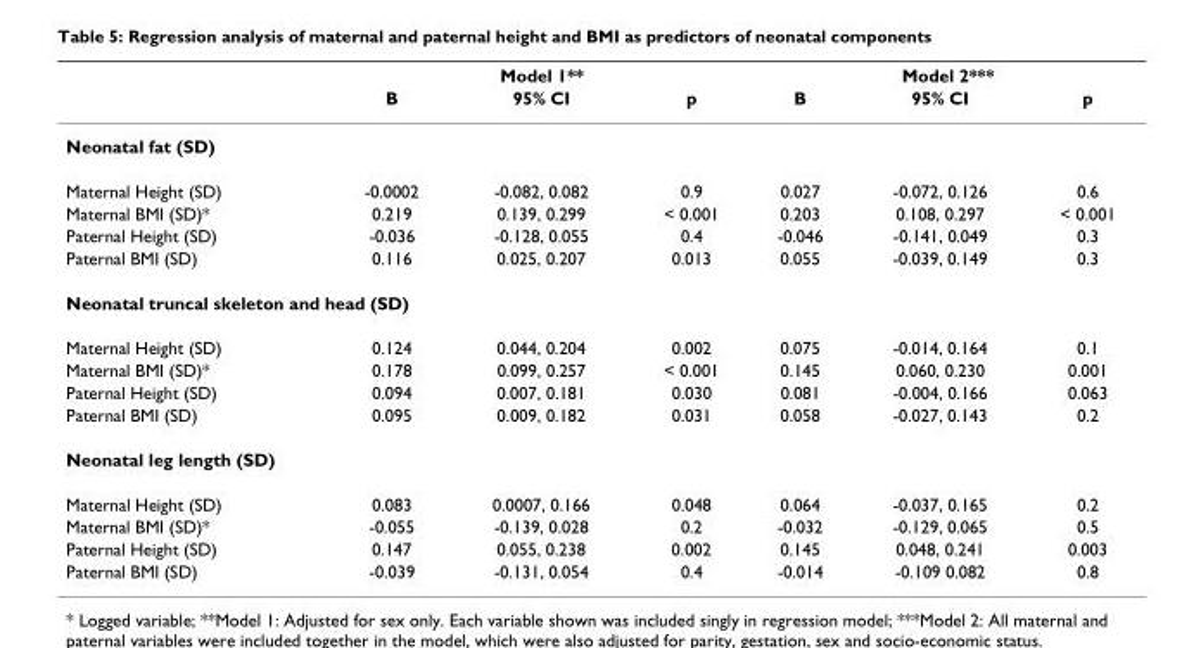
<table><thead><tr><td rowspan="2"></td><td colspan="3">Model 1**</td><td colspan="3">Model 2***</td></tr><tr><td>B</td><td>95% CI</td><td>p</td><td>B</td><td>95% CI</td><td>p</td></tr></thead><tbody><tr><td colspan="7">Neonatal fat (SD)</td></tr><tr><td>Maternal Height (SD)</td><td>-0.0002</td><td>-0.082, 0.082</td><td>0.9</td><td>0.027</td><td>-0.072, 0.126</td><td>0.6</td></tr><tr><td>Maternal BMI (SD)*</td><td>0.219</td><td>0.139, 0.299</td><td>&lt; 0.001</td><td>0.203</td><td>0.108, 0.297</td><td>&lt; 0.001</td></tr><tr><td>Paternal Height (SD)</td><td>-0.036</td><td>-0.128, 0.055</td><td>0.4</td><td>-0.046</td><td>-0.141, 0.049</td><td>0.3</td></tr><tr><td>Paternal BMI (SD)</td><td>0.116</td><td>0.025, 0.207</td><td>0.013</td><td>0.055</td><td>-0.039, 0.149</td><td>0.3</td></tr><tr><td colspan="7">Neonatal truncal skeleton and head (SD)</td></tr><tr><td>Maternal Height (SD)</td><td>0.124</td><td>0.044, 0.204</td><td>0.002</td><td>0.075</td><td>-0.014, 0.164</td><td>0.1</td></tr><tr><td>Maternal BMI (SD)*</td><td>0.178</td><td>0.099, 0.257</td><td>&lt; 0.001</td><td>0.145</td><td>0.060, 0.230</td><td>0.001</td></tr><tr><td>Paternal Height (SD)</td><td>0.094</td><td>0.007, 0.181</td><td>0.030</td><td>0.081</td><td>-0.004, 0.166</td><td>0.063</td></tr><tr><td>Paternal BMI (SD)</td><td>0.095</td><td>0.009, 0.182</td><td>0.031</td><td>0.058</td><td>-0.027, 0.143</td><td>0.2</td></tr><tr><td colspan="7">Neonatal leg length (SD)</td></tr><tr><td>Maternal Height (SD)</td><td>0.083</td><td>0.0007, 0.166</td><td>0.048</td><td>0.064</td><td>-0.037, 0.165</td><td>0.2</td></tr><tr><td>Maternal BMI (SD)*</td><td>-0.055</td><td>-0.139, 0.028</td><td>0.2</td><td>-0.032</td><td>-0.129, 0.065</td><td>0.5</td></tr><tr><td>Paternal Height (SD)</td><td>0.147</td><td>0.055, 0.238</td><td>0.002</td><td>0.145</td><td>0.048, 0.241</td><td>0.003</td></tr><tr><td>Paternal BMI (SD)</td><td>-0.039</td><td>-0.131, 0.054</td><td>0.4</td><td>-0.014</td><td>-0.109 0.082</td><td>0.8</td></tr></tbody></table>